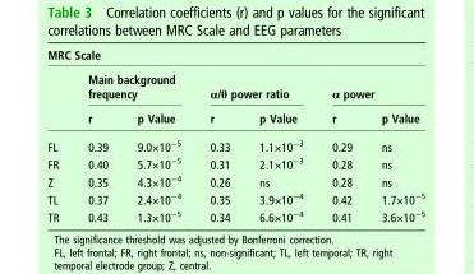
<table><thead><tr><td colspan="7">MRC Scale</td></tr><tr><td rowspan="2"></td><td colspan="2">Main background frequency</td><td colspan="2">α/θ power ratio</td><td colspan="2">α power</td></tr><tr><td>r</td><td>p Value</td><td>r</td><td>p Value</td><td>r</td><td>p Value</td></tr></thead><tbody><tr><td>FL</td><td>0.39</td><td>9.0×10<sup>−5</sup></td><td>0.33</td><td>1.1×10<sup>−3</sup></td><td>0.29</td><td>ns</td></tr><tr><td>FR</td><td>0.40</td><td>5.7×10<sup>−5</sup></td><td>0.31</td><td>2.1×10<sup>−3</sup></td><td>0.28</td><td>ns</td></tr><tr><td>Z</td><td>0.35</td><td>4.3×10<sup>−4</sup></td><td>0.26</td><td>ns</td><td>0.28</td><td>ns</td></tr><tr><td>TL</td><td>0.37</td><td>2.4×10<sup>−4</sup></td><td>0.35</td><td>3.9×10<sup>−4</sup></td><td>0.42</td><td>1.7×10<sup>−5</sup></td></tr><tr><td>TR</td><td>0.43</td><td>1.3×10<sup>−5</sup></td><td>0.34</td><td>6.6×10<sup>−4</sup></td><td>0.41</td><td>3.6×10<sup>−5</sup></td></tr></tbody></table>